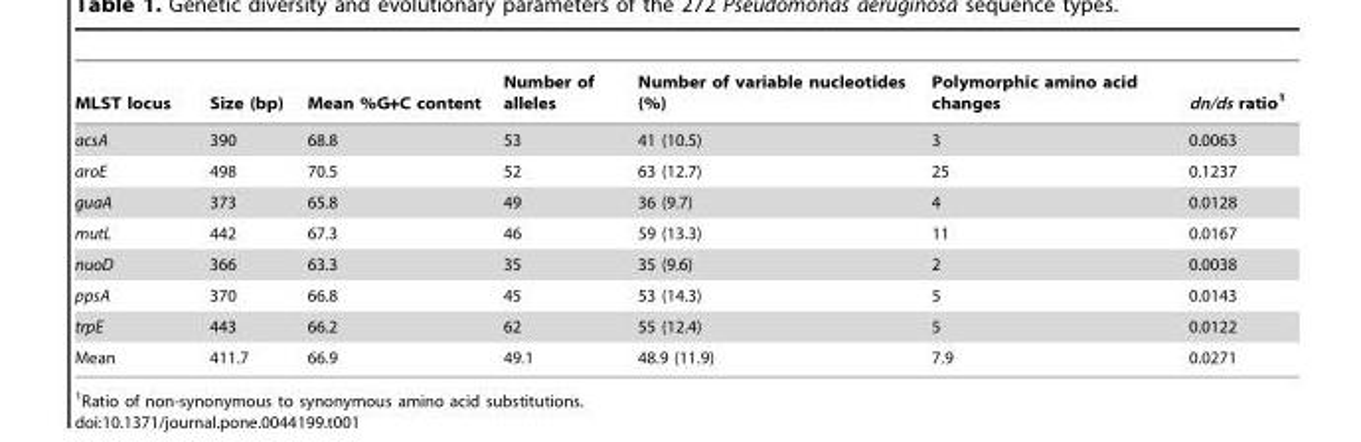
<table><thead><tr><td>MLST locus</td><td>Size (bp)</td><td>Mean %G+C content</td><td>Number of alleles</td><td>Number of variable nucleotides (%)</td><td>Polymorphic amino acid changes</td><td>dn/ds ratio<sup>1</sup></td></tr></thead><tbody><tr><td>acsA</td><td>390</td><td>68.8</td><td>53</td><td>41 (10.5)</td><td>3</td><td>0.0063</td></tr><tr><td>aroE</td><td>498</td><td>70.5</td><td>52</td><td>63 (12.7)</td><td>25</td><td>0.1237</td></tr><tr><td>guaA</td><td>373</td><td>65.8</td><td>49</td><td>36 (9.7)</td><td>4</td><td>0.0128</td></tr><tr><td>mutL</td><td>442</td><td>67.3</td><td>46</td><td>59 (13.3)</td><td>11</td><td>0.0167</td></tr><tr><td>nuoD</td><td>366</td><td>63.3</td><td>35</td><td>35 (9.6)</td><td>2</td><td>0.0038</td></tr><tr><td>ppsA</td><td>370</td><td>66.8</td><td>45</td><td>53 (14.3)</td><td>5</td><td>0.0143</td></tr><tr><td>trpE</td><td>443</td><td>66.2</td><td>62</td><td>55 (12.4)</td><td>5</td><td>0.0122</td></tr><tr><td>Mean</td><td>411.7</td><td>66.9</td><td>49.1</td><td>48.9 (11.9)</td><td>7.9</td><td>0.0271</td></tr></tbody></table>